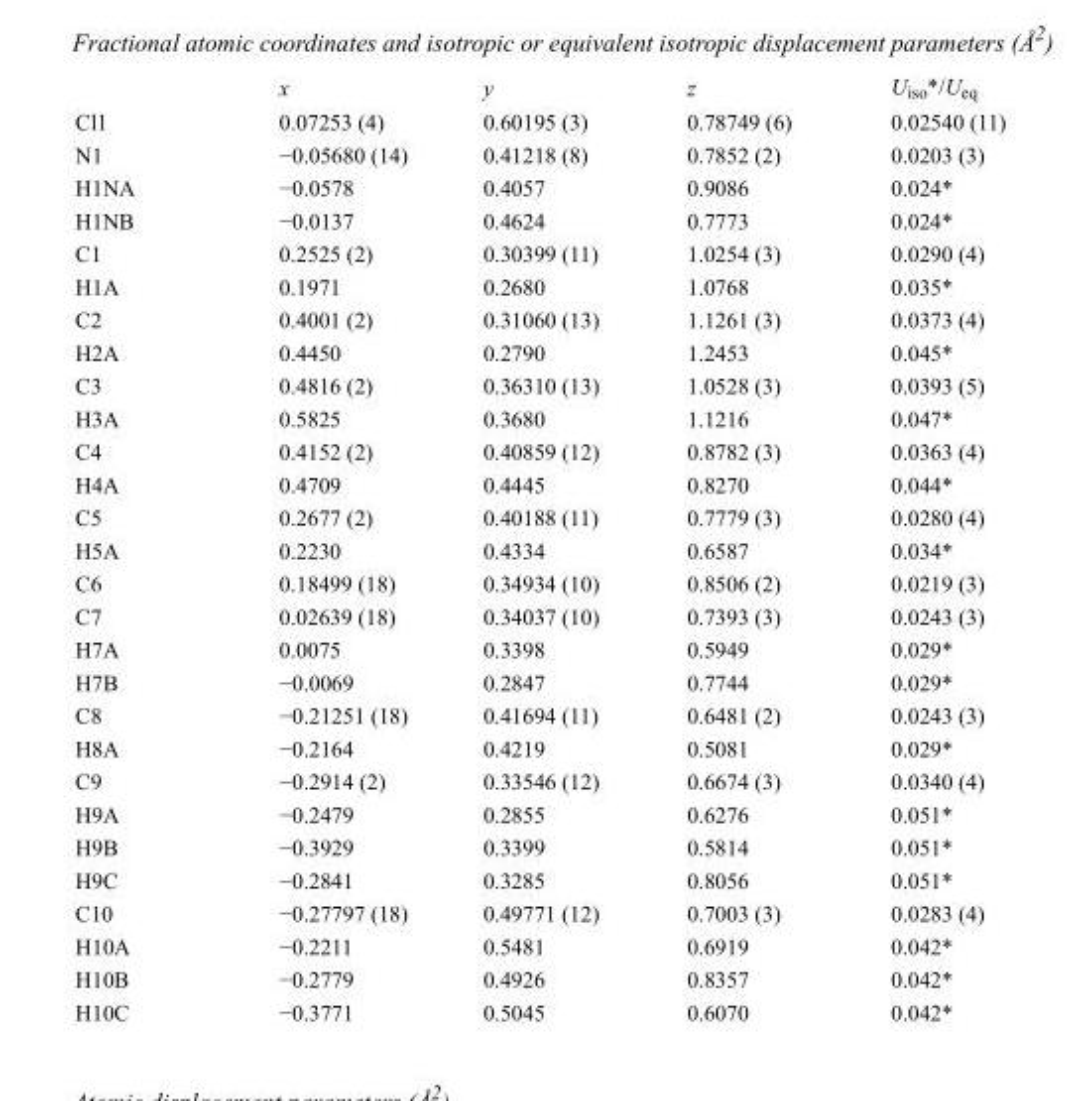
<table><thead><tr><td></td><td>x</td><td>y</td><td>z</td><td>U<sub>iso</sub>*/U<sub>eq</sub></td></tr></thead><tbody><tr><td>Cl1</td><td>0.07253 (4)</td><td>0.60195 (3)</td><td>0.78749 (6)</td><td>0.02540 (11)</td></tr><tr><td>N1</td><td>−0.05680 (14)</td><td>0.41218 (8)</td><td>0.7852 (2)</td><td>0.0203 (3)</td></tr><tr><td>H1NA</td><td>−0.0578</td><td>0.4057</td><td>0.9086</td><td>0.024*</td></tr><tr><td>H1NB</td><td>−0.0137</td><td>0.4624</td><td>0.7773</td><td>0.024*</td></tr><tr><td>C1</td><td>0.2525 (2)</td><td>0.30399 (11)</td><td>1.0254 (3)</td><td>0.0290 (4)</td></tr><tr><td>H1A</td><td>0.1971</td><td>0.2680</td><td>1.0768</td><td>0.035*</td></tr><tr><td>C2</td><td>0.4001 (2)</td><td>0.31060 (13)</td><td>1.1261 (3)</td><td>0.0373 (4)</td></tr><tr><td>H2A</td><td>0.4450</td><td>0.2790</td><td>1.2453</td><td>0.045*</td></tr><tr><td>C3</td><td>0.4816 (2)</td><td>0.36310 (13)</td><td>1.0528 (3)</td><td>0.0393 (5)</td></tr><tr><td>H3A</td><td>0.5825</td><td>0.3680</td><td>1.1216</td><td>0.047*</td></tr><tr><td>C4</td><td>0.4152 (2)</td><td>0.40859 (12)</td><td>0.8782 (3)</td><td>0.0363 (4)</td></tr><tr><td>H4A</td><td>0.4709</td><td>0.4445</td><td>0.8270</td><td>0.044*</td></tr><tr><td>C5</td><td>0.2677 (2)</td><td>0.40188 (11)</td><td>0.7779 (3)</td><td>0.0280 (4)</td></tr><tr><td>H5A</td><td>0.2230</td><td>0.4334</td><td>0.6587</td><td>0.034*</td></tr><tr><td>C6</td><td>0.18499 (18)</td><td>0.34934 (10)</td><td>0.8506 (2)</td><td>0.0219 (3)</td></tr><tr><td>C7</td><td>0.02639 (18)</td><td>0.34037 (10)</td><td>0.7393 (3)</td><td>0.0243 (3)</td></tr><tr><td>H7A</td><td>0.0075</td><td>0.3398</td><td>0.5949</td><td>0.029*</td></tr><tr><td>H7B</td><td>−0.0069</td><td>0.2847</td><td>0.7744</td><td>0.029*</td></tr><tr><td>C8</td><td>−0.21251 (18)</td><td>0.41694 (11)</td><td>0.6481 (2)</td><td>0.0243 (3)</td></tr><tr><td>H8A</td><td>−0.2164</td><td>0.4219</td><td>0.5081</td><td>0.029*</td></tr><tr><td>C9</td><td>−0.2914 (2)</td><td>0.33546 (12)</td><td>0.6674 (3)</td><td>0.0340 (4)</td></tr><tr><td>H9A</td><td>−0.2479</td><td>0.2855</td><td>0.6276</td><td>0.051*</td></tr><tr><td>H9B</td><td>−0.3929</td><td>0.3399</td><td>0.5814</td><td>0.051*</td></tr><tr><td>H9C</td><td>−0.2841</td><td>0.3285</td><td>0.8056</td><td>0.051*</td></tr><tr><td>C10</td><td>−0.27797 (18)</td><td>0.49771 (12)</td><td>0.7003 (3)</td><td>0.0283 (4)</td></tr><tr><td>H10A</td><td>−0.2211</td><td>0.5481</td><td>0.6919</td><td>0.042*</td></tr><tr><td>H10B</td><td>−0.2779</td><td>0.4926</td><td>0.8357</td><td>0.042*</td></tr><tr><td>H10C</td><td>−0.3771</td><td>0.5045</td><td>0.6070</td><td>0.042*</td></tr></tbody></table>